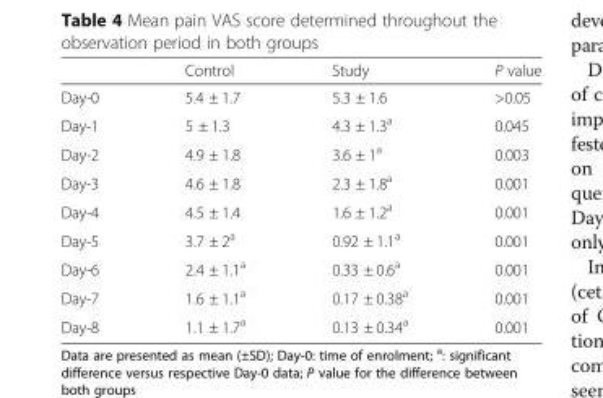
<table><thead><tr><td></td><td>Control</td><td>Study</td><td>P value</td></tr></thead><tbody><tr><td>Day-0</td><td>5.4 ± 1.7</td><td>5.3 ± 1.6</td><td>&gt;0.05</td></tr><tr><td>Day-1</td><td>5 ± 1.3</td><td>4.3 ± 1.3<sup>a</sup></td><td>0.045</td></tr><tr><td>Day-2</td><td>4.9 ± 1.8</td><td>3.6 ± 1<sup>a</sup></td><td>0.003</td></tr><tr><td>Day-3</td><td>4.6 ± 1.8</td><td>2.3 ± 1.8<sup>a</sup></td><td>0.001</td></tr><tr><td>Day-4</td><td>4.5 ± 1.4</td><td>1.6 ± 1.2<sup>a</sup></td><td>0.001</td></tr><tr><td>Day-5</td><td>3.7 ± 2<sup>a</sup></td><td>0.92 ± 1.1<sup>a</sup></td><td>0.001</td></tr><tr><td>Day-6</td><td>2.4 ± 1.1<sup>a</sup></td><td>0.33 ± 0.6<sup>a</sup></td><td>0.001</td></tr><tr><td>Day-7</td><td>1.6 ± 1.1<sup>a</sup></td><td>0.17 ± 0.38<sup>a</sup></td><td>0.001</td></tr><tr><td>Day-8</td><td>1.1 ± 1.7<sup>a</sup></td><td>0.13 ± 0.34<sup>a</sup></td><td>0.001</td></tr></tbody></table>